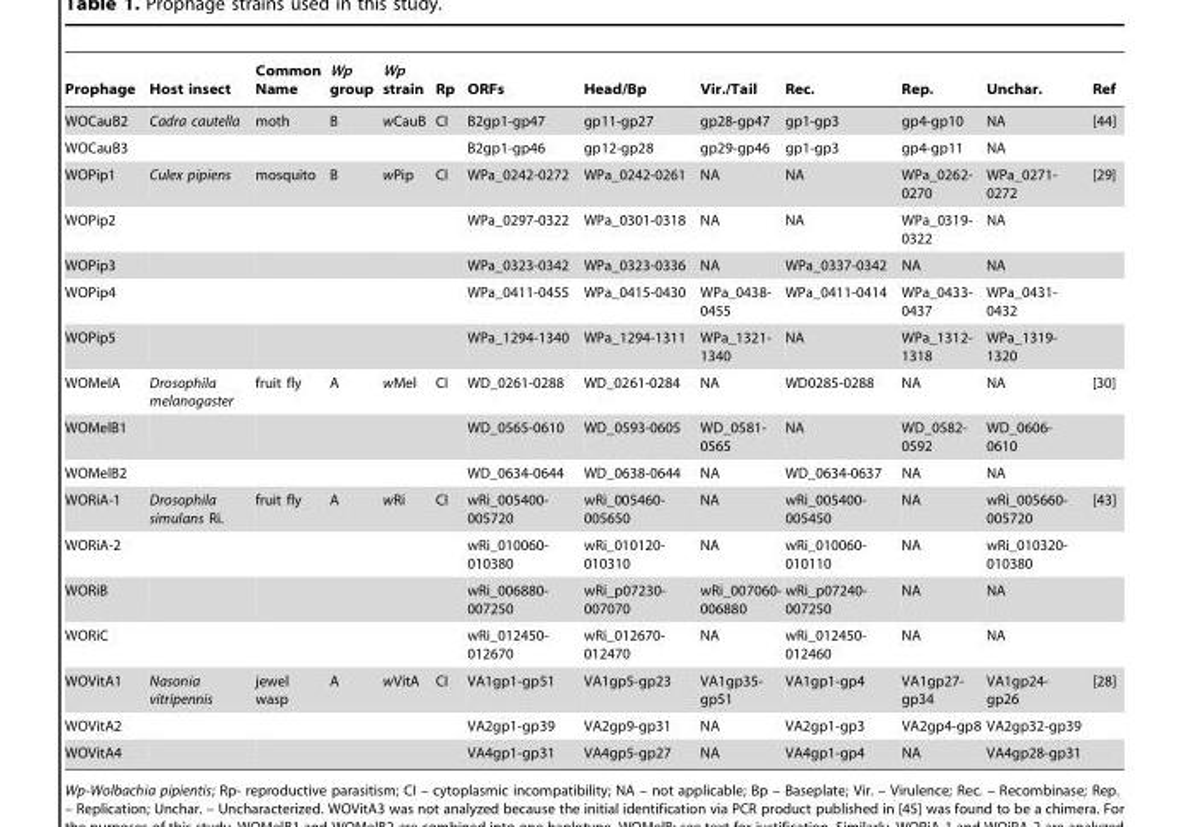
<table><thead><tr><td>Prophage</td><td>Host insect</td><td>Common Name</td><td>Wp group</td><td>Wp strain</td><td>Rp</td><td>ORFs</td><td>Head/Bp</td><td>Vir./Tail</td><td>Rec.</td><td>Rep.</td><td>Unchar.</td><td>Ref</td></tr></thead><tbody><tr><td>WOCauB2</td><td>Cadra cautella</td><td>moth</td><td>B</td><td>wCauB</td><td>CI</td><td>B2gp1-gp47</td><td>gp11-gp27</td><td>gp28-gp47</td><td>gp1-gp3</td><td>gp4-gp10</td><td>NA</td><td>[44]</td></tr><tr><td>WOCauB3</td><td></td><td></td><td></td><td></td><td></td><td>B2gp1-gp46</td><td>gp12-gp28</td><td>gp29-gp46</td><td>gp1-gp3</td><td>gp4-gp11</td><td>NA</td><td></td></tr><tr><td>WOPip1</td><td>Culex pipiens</td><td>mosquito</td><td>B</td><td>wPip</td><td>CI</td><td>WPa_0242-0272</td><td>WPa_0242-0261</td><td>NA</td><td>NA</td><td>WPa_0262- 0270</td><td>WPa_0271- 0272</td><td>[29]</td></tr><tr><td>WOPip2</td><td></td><td></td><td></td><td></td><td></td><td>WPa_0297-0322</td><td>WPa_0301-0318</td><td>NA</td><td>NA</td><td>WPa_0319- 0322</td><td>NA</td><td></td></tr><tr><td>WOPip3</td><td></td><td></td><td></td><td></td><td></td><td>WPa_0323-0342</td><td>WPa_0323-0336</td><td>NA</td><td>WPa_0337-0342</td><td>NA</td><td>NA</td><td></td></tr><tr><td>WOPip4</td><td></td><td></td><td></td><td></td><td></td><td>WPa_0411-0455</td><td>WPa_0415-0430</td><td>WPa_0438- 0455</td><td>WPa_0411-0414</td><td>WPa_0433- 0437</td><td>WPa_0431- 0432</td><td></td></tr><tr><td>WOPip5</td><td></td><td></td><td></td><td></td><td></td><td>WPa_1294-1340</td><td>WPa_1294-1311</td><td>WPa_1321- 1340</td><td>NA</td><td>WPa_1312- 1318</td><td>WPa_1319- 1320</td><td></td></tr><tr><td>WOMelA</td><td>Drosophila melanogaster</td><td>fruit fly</td><td>A</td><td>wMel</td><td>CI</td><td>WD_0261-0288</td><td>WD_0261-0284</td><td>NA</td><td>WD0285-0288</td><td>NA</td><td>NA</td><td>[30]</td></tr><tr><td>WOMelB1</td><td></td><td></td><td></td><td></td><td></td><td>WD_0565-0610</td><td>WD_0593-0605</td><td>WD_0581- 0565</td><td>NA</td><td>WD_0582- 0592</td><td>WD_0606- 0610</td><td></td></tr><tr><td>WOMelB2</td><td></td><td></td><td></td><td></td><td></td><td>WD_0634-0644</td><td>WD_0638-0644</td><td>NA</td><td>WD_0634-0637</td><td>NA</td><td>NA</td><td></td></tr><tr><td>WORiA-1</td><td>Drosophila simulans Ri.</td><td>fruit fly</td><td>A</td><td>wRi</td><td>CI</td><td>wRi_005400- 005720</td><td>wRi_005460- 005650</td><td>NA</td><td>wRi_005400- 005450</td><td>NA</td><td>wRi_005660- 005720</td><td>[43]</td></tr><tr><td>WORiA-2</td><td></td><td></td><td></td><td></td><td></td><td>wRi_010060- 010380</td><td>wRi_010120- 010310</td><td>NA</td><td>wRi_010060- 010110</td><td>NA</td><td>wRi_010320- 010380</td><td></td></tr><tr><td>WORiB</td><td></td><td></td><td></td><td></td><td></td><td>wRi_006880- 007250</td><td>wRi_p07230- 007070</td><td>wRi_007060- 006880</td><td>wRi_p07240- 007250</td><td>NA</td><td>NA</td><td></td></tr><tr><td>WORiC</td><td></td><td></td><td></td><td></td><td></td><td>wRi_012450- 012670</td><td>wRi_012670- 012470</td><td>NA</td><td>wRi_012450- 012460</td><td>NA</td><td>NA</td><td></td></tr><tr><td>WOVitA1</td><td>Nasonia vitripennis</td><td>jewel wasp</td><td>A</td><td>wVitA</td><td>CI</td><td>VA1gp1-gp51</td><td>VA1gp5-gp23</td><td>VA1gp35- gp51</td><td>VA1gp1-gp4</td><td>VA1gp27- gp34</td><td>VA1gp24- gp26</td><td>[28]</td></tr><tr><td>WOVitA2</td><td></td><td></td><td></td><td></td><td></td><td>VA2gp1-gp39</td><td>VA2gp9-gp31</td><td>NA</td><td>VA2gp1-gp3</td><td>VA2gp4-gp8</td><td>VA2gp32-gp39</td><td></td></tr><tr><td>WOVitA4</td><td></td><td></td><td></td><td></td><td></td><td>VA4gp1-gp31</td><td>VA4gp5-gp27</td><td>NA</td><td>VA4gp1-gp4</td><td>NA</td><td>VA4gp28-gp31</td><td></td></tr></tbody></table>